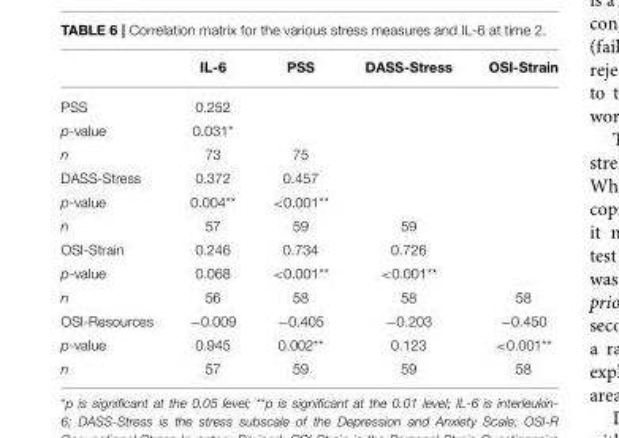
<table><thead><tr><td></td><td>IL-6</td><td>PSS</td><td>DASS-Stress</td><td>OSI-Strain</td></tr></thead><tbody><tr><td>PSS</td><td>0.252</td><td></td><td></td><td></td></tr><tr><td>p-value</td><td>0.031*</td><td></td><td></td><td></td></tr><tr><td>n</td><td>73</td><td>75</td><td></td><td></td></tr><tr><td>DASS-Stress</td><td>0.372</td><td>0.457</td><td></td><td></td></tr><tr><td>p-value</td><td>0.004**</td><td>&lt;0.001**</td><td></td><td></td></tr><tr><td>n</td><td>57</td><td>59</td><td>59</td><td></td></tr><tr><td>OSI-Strain</td><td>0.246</td><td>0.734</td><td>0.726</td><td></td></tr><tr><td>p-value</td><td>0.068</td><td>&lt;0.001**</td><td>&lt;0.001**</td><td></td></tr><tr><td>n</td><td>56</td><td>58</td><td>58</td><td>58</td></tr><tr><td>OSI-Resources</td><td>−0.009</td><td>−0.405</td><td>−0.203</td><td>−0.450</td></tr><tr><td>p-value</td><td>0.945</td><td>0.002**</td><td>0.123</td><td>&lt;0.001**</td></tr><tr><td>n</td><td>57</td><td>59</td><td>59</td><td>58</td></tr></tbody></table>